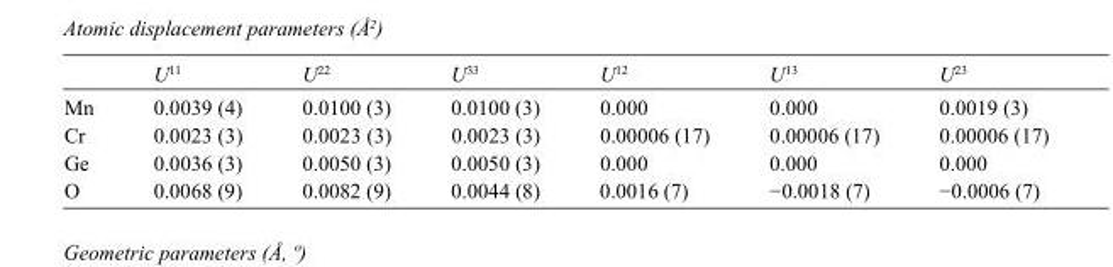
<table><thead><tr><td></td><td>U<sup>11</sup></td><td>U<sup>22</sup></td><td>U<sup>33</sup></td><td>U<sup>12</sup></td><td>U<sup>13</sup></td><td>U<sup>23</sup></td></tr></thead><tbody><tr><td>Mn</td><td>0.0039 (4)</td><td>0.0100 (3)</td><td>0.0100 (3)</td><td>0.000</td><td>0.000</td><td>0.0019 (3)</td></tr><tr><td>Cr</td><td>0.0023 (3)</td><td>0.0023 (3)</td><td>0.0023 (3)</td><td>0.00006 (17)</td><td>0.00006 (17)</td><td>0.00006 (17)</td></tr><tr><td>Ge</td><td>0.0036 (3)</td><td>0.0050 (3)</td><td>0.0050 (3)</td><td>0.000</td><td>0.000</td><td>0.000</td></tr><tr><td>O</td><td>0.0068 (9)</td><td>0.0082 (9)</td><td>0.0044 (8)</td><td>0.0016 (7)</td><td>−0.0018 (7)</td><td>−0.0006 (7)</td></tr></tbody></table>